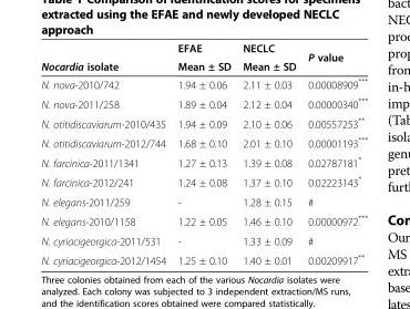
<table><thead><tr><td rowspan="2">Nocardia isolate</td><td rowspan="2">EFAE Mean ± SD</td><td rowspan="2">NECLC Mean ± SD</td><td rowspan="2">P value</td></tr><tr></tr></thead><tbody><tr><td>N. nova-2010/742</td><td>1.94 ± 0.06</td><td>2.11 ± 0.03</td><td>0.00008909***</td></tr><tr><td>N. nova-2011/258</td><td>1.89 ± 0.04</td><td>2.12 ± 0.04</td><td>0.00000340***</td></tr><tr><td>N. otitidiscaviarum-2010/435</td><td>1.94 ± 0.09</td><td>2.10 ± 0.06</td><td>0.00557253**</td></tr><tr><td>N. otitidiscaviarum-2012/744</td><td>1.68 ± 0.10</td><td>2.01 ± 0.10</td><td>0.00001193***</td></tr><tr><td>N. farcinica-2011/1341</td><td>1.27 ± 0.13</td><td>1.39 ± 0.08</td><td>0.02787181*</td></tr><tr><td>N. farcinica-2012/241</td><td>1.24 ± 0.08</td><td>1.37 ± 0.10</td><td>0.02223143*</td></tr><tr><td>N. elegans-2011/259</td><td>-</td><td>1.28 ± 0.15</td><td>#</td></tr><tr><td>N. elegans-2010/1158</td><td>1.22 ± 0.05</td><td>1.46 ± 0.10</td><td>0.00000972***</td></tr><tr><td>N. cyriacigeorgica-2011/531</td><td>-</td><td>1.33 ± 0.09</td><td>#</td></tr><tr><td>N. cyriacigeorgica-2012/1454</td><td>1.25 ± 0.10</td><td>1.40 ± 0.01</td><td>0.00209917**</td></tr></tbody></table>